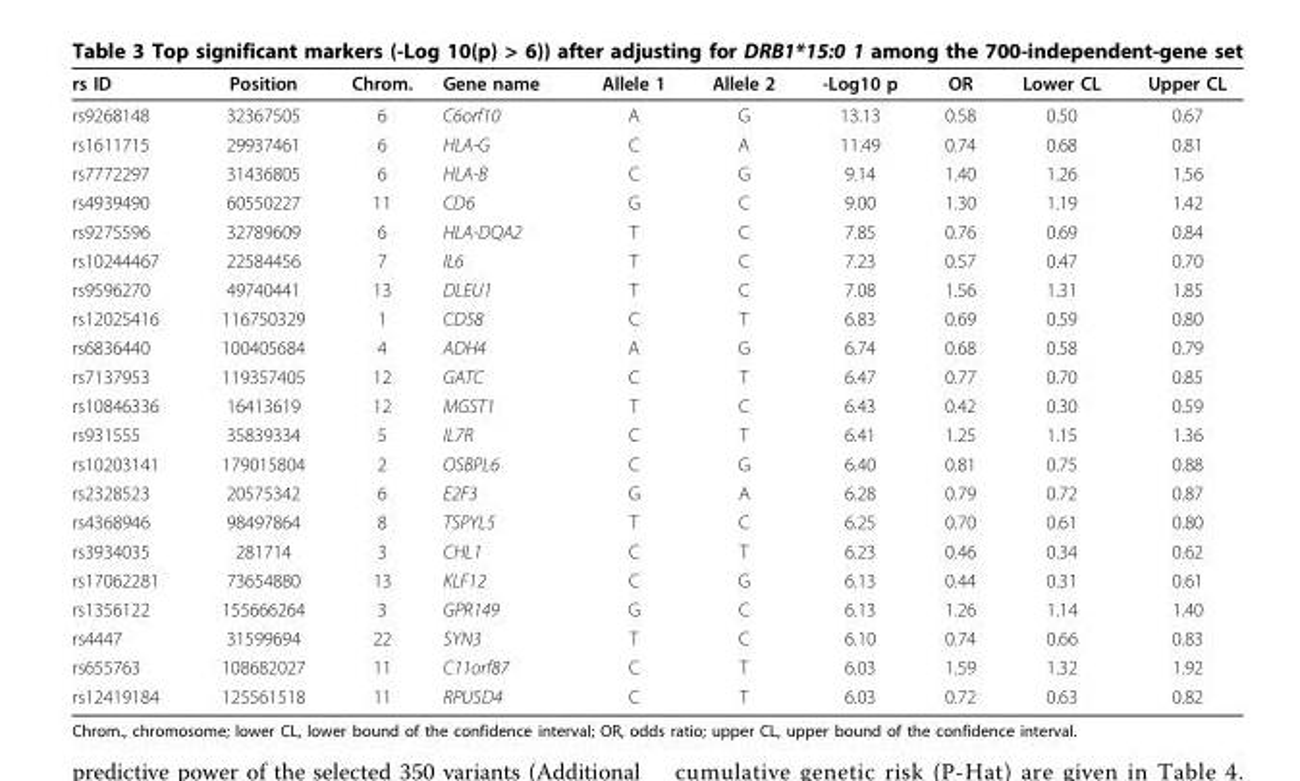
<table><thead><tr><td>rs ID</td><td>Position</td><td>Chrom.</td><td>Gene name</td><td>Allele 1</td><td>Allele 2</td><td>-Log10 p</td><td>OR</td><td>Lower CL</td><td>Upper CL</td></tr></thead><tbody><tr><td>rs9268148</td><td>32367505</td><td>6</td><td>C6orf10</td><td>A</td><td>G</td><td>13.13</td><td>0.58</td><td>0.50</td><td>0.67</td></tr><tr><td>rs1611715</td><td>29937461</td><td>6</td><td>HLA-G</td><td>C</td><td>A</td><td>11.49</td><td>0.74</td><td>0.68</td><td>0.81</td></tr><tr><td>rs7772297</td><td>31436805</td><td>6</td><td>HLA-B</td><td>C</td><td>G</td><td>9.14</td><td>1.40</td><td>1.26</td><td>1.56</td></tr><tr><td>rs4939490</td><td>60550227</td><td>11</td><td>CD6</td><td>G</td><td>C</td><td>9.00</td><td>1.30</td><td>1.19</td><td>1.42</td></tr><tr><td>rs9275596</td><td>32789609</td><td>6</td><td>HLA-DQA2</td><td>T</td><td>C</td><td>7.85</td><td>0.76</td><td>0.69</td><td>0.84</td></tr><tr><td>rs10244467</td><td>22584456</td><td>7</td><td>IL6</td><td>T</td><td>C</td><td>7.23</td><td>0.57</td><td>0.47</td><td>0.70</td></tr><tr><td>rs9596270</td><td>49740441</td><td>13</td><td>DLEU1</td><td>T</td><td>C</td><td>7.08</td><td>1.56</td><td>1.31</td><td>1.85</td></tr><tr><td>rs12025416</td><td>116750329</td><td>1</td><td>CD58</td><td>C</td><td>T</td><td>6.83</td><td>0.69</td><td>0.59</td><td>0.80</td></tr><tr><td>rs6836440</td><td>100405684</td><td>4</td><td>ADH4</td><td>A</td><td>G</td><td>6.74</td><td>0.68</td><td>0.58</td><td>0.79</td></tr><tr><td>rs7137953</td><td>119357405</td><td>12</td><td>GATC</td><td>C</td><td>T</td><td>6.47</td><td>0.77</td><td>0.70</td><td>0.85</td></tr><tr><td>rs10846336</td><td>16413619</td><td>12</td><td>MGST1</td><td>T</td><td>C</td><td>6.43</td><td>0.42</td><td>0.30</td><td>0.59</td></tr><tr><td>rs931555</td><td>35839334</td><td>5</td><td>IL7R</td><td>C</td><td>T</td><td>6.41</td><td>1.25</td><td>1.15</td><td>1.36</td></tr><tr><td>rs10203141</td><td>179015804</td><td>2</td><td>OSBPL6</td><td>C</td><td>G</td><td>6.40</td><td>0.81</td><td>0.75</td><td>0.88</td></tr><tr><td>rs2328523</td><td>20575342</td><td>6</td><td>E2F3</td><td>G</td><td>A</td><td>6.28</td><td>0.79</td><td>0.72</td><td>0.87</td></tr><tr><td>rs4368946</td><td>98497864</td><td>8</td><td>TSPYL5</td><td>T</td><td>C</td><td>6.25</td><td>0.70</td><td>0.61</td><td>0.80</td></tr><tr><td>rs3934035</td><td>281714</td><td>3</td><td>CHL1</td><td>C</td><td>T</td><td>6.23</td><td>0.46</td><td>0.34</td><td>0.62</td></tr><tr><td>rs17062281</td><td>73654880</td><td>13</td><td>KLF12</td><td>C</td><td>G</td><td>6.13</td><td>0.44</td><td>0.31</td><td>0.61</td></tr><tr><td>rs1356122</td><td>155666264</td><td>3</td><td>GPR149</td><td>G</td><td>C</td><td>6.13</td><td>1.26</td><td>1.14</td><td>1.40</td></tr><tr><td>rs4447</td><td>31599694</td><td>22</td><td>SYN3</td><td>T</td><td>C</td><td>6.10</td><td>0.74</td><td>0.66</td><td>0.83</td></tr><tr><td>rs655763</td><td>108682027</td><td>11</td><td>C11orf87</td><td>C</td><td>T</td><td>6.03</td><td>1.59</td><td>1.32</td><td>1.92</td></tr><tr><td>rs12419184</td><td>125561518</td><td>11</td><td>RPUSD4</td><td>C</td><td>T</td><td>6.03</td><td>0.72</td><td>0.63</td><td>0.82</td></tr></tbody></table>